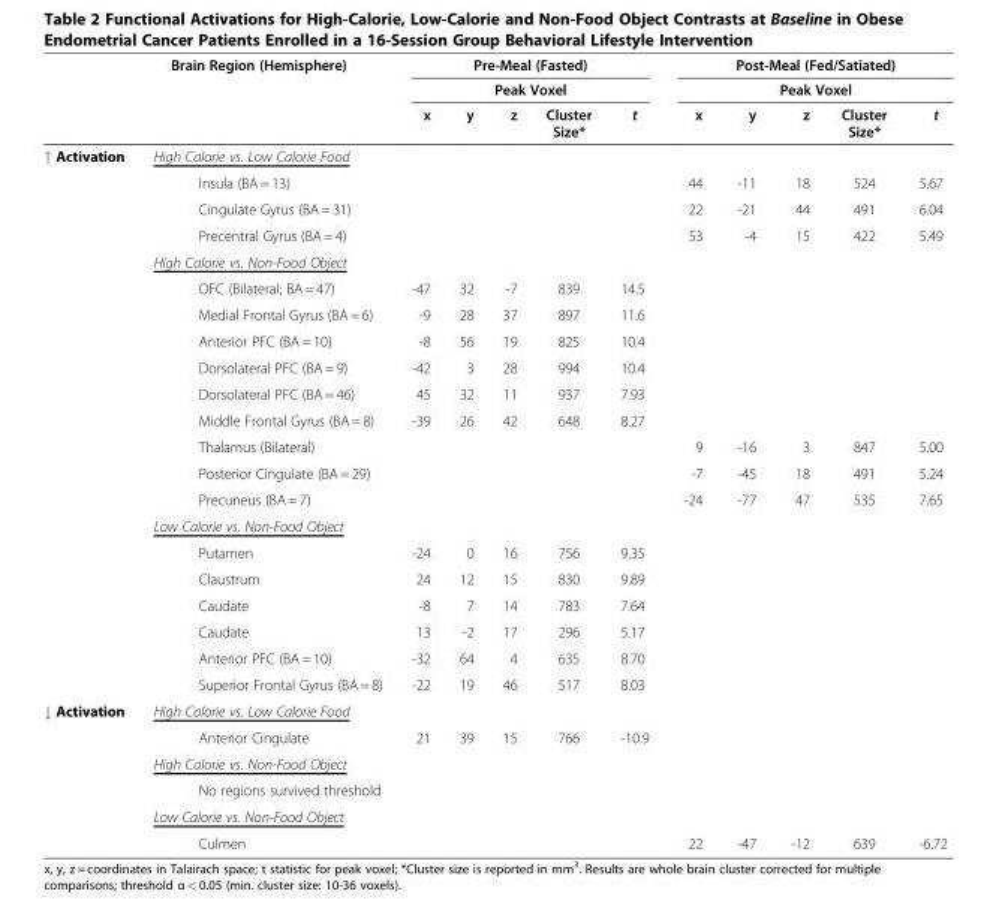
<table><thead><tr><td rowspan="3"></td><td rowspan="3">Brain Region (Hemisphere)</td><td rowspan="2" colspan="5">Pre-Meal (Fasted) Peak Voxel</td><td rowspan="2" colspan="5">Post-Meal (Fed/Satiated) Peak Voxel</td></tr><tr></tr><tr><td>x</td><td>y</td><td>z</td><td>Cluster Size*</td><td>t</td><td>x</td><td>y</td><td>z</td><td>Cluster Size*</td><td>t</td></tr></thead><tbody><tr><td rowspan="21">Activation</td><td colspan="11">High Calorie vs. Low Calorie Food</td></tr><tr><td>Insula (BA = 13)</td><td></td><td></td><td></td><td></td><td></td><td>44</td><td>-11</td><td>18</td><td>524</td><td>5.67</td></tr><tr><td>Cingulate Gyrus (BA = 31)</td><td></td><td></td><td></td><td></td><td></td><td>22</td><td>-21</td><td>44</td><td>491</td><td>6.04</td></tr><tr><td>Precentral Gyrus (BA = 4)</td><td></td><td></td><td></td><td></td><td></td><td>53</td><td>-4</td><td>15</td><td>422</td><td>5.49</td></tr><tr><td colspan="11">High Calorie vs. Non-Food Object</td></tr><tr><td>OFC (Bilateral; BA = 47)</td><td>-47</td><td>32</td><td>-7</td><td>839</td><td>14.5</td><td></td><td></td><td></td><td></td><td></td></tr><tr><td>Medial Frontal Gyrus (BA = 6)</td><td>-9</td><td>28</td><td>37</td><td>897</td><td>11.6</td><td></td><td></td><td></td><td></td><td></td></tr><tr><td>Anterior PFC (BA = 10)</td><td>-8</td><td>56</td><td>19</td><td>825</td><td>10.4</td><td></td><td></td><td></td><td></td><td></td></tr><tr><td>Dorsolateral PFC (BA = 9)</td><td>-42</td><td>3</td><td>28</td><td>994</td><td>10.4</td><td></td><td></td><td></td><td></td><td></td></tr><tr><td>Dorsolateral PFC (BA = 46)</td><td>45</td><td>32</td><td>11</td><td>937</td><td>7.93</td><td></td><td></td><td></td><td></td><td></td></tr><tr><td>Middle Frontal Gyrus (BA = 8)</td><td>-39</td><td>26</td><td>42</td><td>648</td><td>8.27</td><td></td><td></td><td></td><td></td><td></td></tr><tr><td>Thalamus (Bilateral)</td><td></td><td></td><td></td><td></td><td></td><td>9</td><td>-16</td><td>3</td><td>847</td><td>5.00</td></tr><tr><td>Posterior Cingulate (BA = 29)</td><td></td><td></td><td></td><td></td><td></td><td>-7</td><td>-45</td><td>18</td><td>491</td><td>5.24</td></tr><tr><td>Precuneus (BA = 7)</td><td></td><td></td><td></td><td></td><td></td><td>-24</td><td>-77</td><td>47</td><td>535</td><td>7.65</td></tr><tr><td colspan="11">Low Calorie vs. Non-Food Object</td></tr><tr><td>Putamen</td><td>-24</td><td>0</td><td>16</td><td>756</td><td>9.35</td><td></td><td></td><td></td><td></td><td></td></tr><tr><td>Claustrum</td><td>24</td><td>12</td><td>15</td><td>830</td><td>9.89</td><td></td><td></td><td></td><td></td><td></td></tr><tr><td>Caudate</td><td>-8</td><td>7</td><td>14</td><td>783</td><td>7.64</td><td></td><td></td><td></td><td></td><td></td></tr><tr><td>Caudate</td><td>13</td><td>-2</td><td>17</td><td>296</td><td>5.17</td><td></td><td></td><td></td><td></td><td></td></tr><tr><td>Anterior PFC (BA = 10)</td><td>-32</td><td>64</td><td>4</td><td>635</td><td>8.70</td><td></td><td></td><td></td><td></td><td></td></tr><tr><td>Superior Frontal Gyrus (BA = 8)</td><td>-22</td><td>19</td><td>46</td><td>517</td><td>8.03</td><td></td><td></td><td></td><td></td><td></td></tr><tr><td rowspan="6">Activation</td><td colspan="11">High Calorie vs. Low Calorie Food</td></tr><tr><td>Anterior Cingulate</td><td>21</td><td>39</td><td>15</td><td>766</td><td>-10.9</td><td></td><td></td><td></td><td></td><td></td></tr><tr><td colspan="11">High Calorie vs. Non-Food Object</td></tr><tr><td>No regions survived threshold</td><td></td><td></td><td></td><td></td><td></td><td></td><td></td><td></td><td></td><td></td></tr><tr><td colspan="11">Low Calorie vs. Non-Food Object</td></tr><tr><td>Culmen</td><td></td><td></td><td></td><td></td><td></td><td>22</td><td>-47</td><td>-12</td><td>639</td><td>-6.72</td></tr></tbody></table>